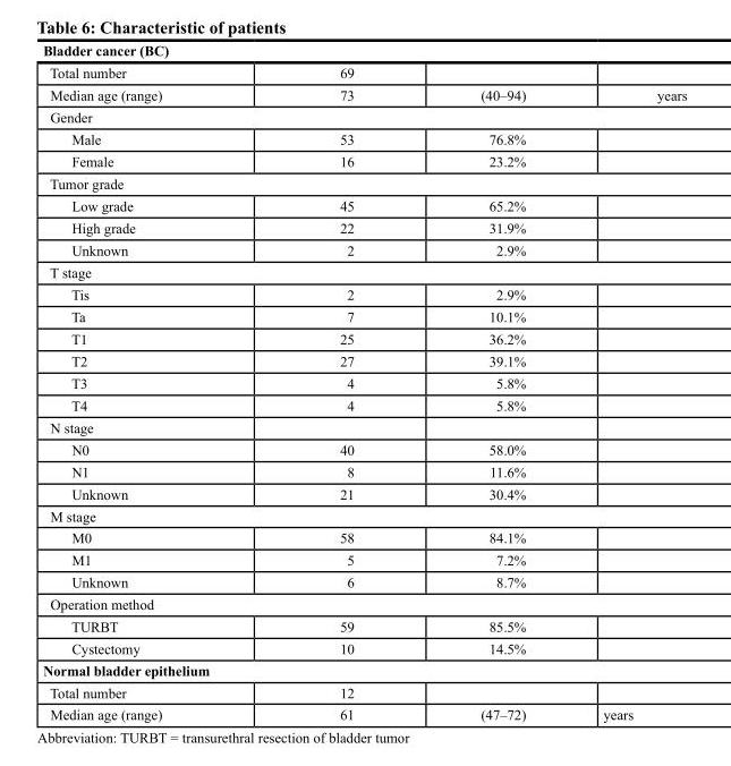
<table><thead><tr><td colspan="4">Bladder cancer (BC)</td></tr><tr><td>Total number</td><td>69</td><td></td><td></td></tr></thead><tbody><tr><td>Median age (range)</td><td>73</td><td>(40–94)</td><td>years</td></tr><tr><td colspan="4">Gender</td></tr><tr><td>Male</td><td>53</td><td>76.8%</td><td></td></tr><tr><td>Female</td><td>16</td><td>23.2%</td><td></td></tr><tr><td colspan="4">Tumor grade</td></tr><tr><td>Low grade</td><td>45</td><td>65.2%</td><td></td></tr><tr><td>High grade</td><td>22</td><td>31.9%</td><td></td></tr><tr><td>Unknown</td><td>2</td><td>2.9%</td><td></td></tr><tr><td colspan="4">T stage</td></tr><tr><td>Tis</td><td>2</td><td>2.9%</td><td></td></tr><tr><td>Ta</td><td>7</td><td>10.1%</td><td></td></tr><tr><td>T1</td><td>25</td><td>36.2%</td><td></td></tr><tr><td>T2</td><td>27</td><td>39.1%</td><td></td></tr><tr><td>T3</td><td>4</td><td>5.8%</td><td></td></tr><tr><td>T4</td><td>4</td><td>5.8%</td><td></td></tr><tr><td colspan="4">N stage</td></tr><tr><td>N0</td><td>40</td><td>58.0%</td><td></td></tr><tr><td>N1</td><td>8</td><td>11.6%</td><td></td></tr><tr><td>Unknown</td><td>21</td><td>30.4%</td><td></td></tr><tr><td colspan="4">M stage</td></tr><tr><td>M0</td><td>58</td><td>84.1%</td><td></td></tr><tr><td>M1</td><td>5</td><td>7.2%</td><td></td></tr><tr><td>Unknown</td><td>6</td><td>8.7%</td><td></td></tr><tr><td colspan="4">Operation method</td></tr><tr><td>TURBT</td><td>59</td><td>85.5%</td><td></td></tr><tr><td>Cystectomy</td><td>10</td><td>14.5%</td><td></td></tr><tr><td colspan="4">Normal bladder epithelium</td></tr><tr><td>Total number</td><td>12</td><td></td><td></td></tr><tr><td>Median age (range)</td><td>61</td><td>(47–72)</td><td>years</td></tr></tbody></table>